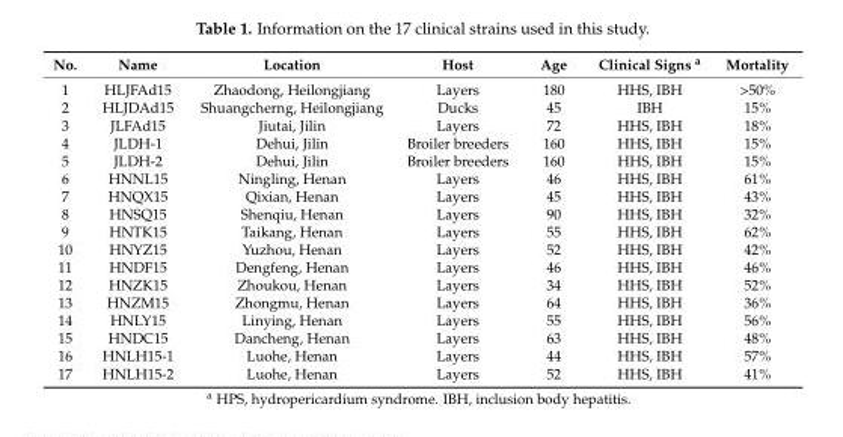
<table><thead><tr><td>No.</td><td>Name</td><td>Location</td><td>Host</td><td>Age</td><td>Clinical Signs <sup>a</sup></td><td>Mortality</td></tr></thead><tbody><tr><td>1</td><td>HLJFAd15</td><td>Zhaodong, Heilongjiang</td><td>Layers</td><td>180</td><td>HHS, IBH</td><td>&gt;50%</td></tr><tr><td>2</td><td>HLJDAd15</td><td>Shuangcherng, Heilongjiang</td><td>Ducks</td><td>45</td><td>IBH</td><td>15%</td></tr><tr><td>3</td><td>JLFAd15</td><td>Jiutai, Jilin</td><td>Layers</td><td>72</td><td>HHS, IBH</td><td>18%</td></tr><tr><td>4</td><td>JLDH-1</td><td>Dehui, Jilin</td><td>Broiler breeders</td><td>160</td><td>HHS, IBH</td><td>15%</td></tr><tr><td>5</td><td>JLDH-2</td><td>Dehui, Jilin</td><td>Broiler breeders</td><td>160</td><td>HHS, IBH</td><td>15%</td></tr><tr><td>6</td><td>HNNL15</td><td>Ningling, Henan</td><td>Layers</td><td>46</td><td>HHS, IBH</td><td>61%</td></tr><tr><td>7</td><td>HNQX15</td><td>Qixian, Henan</td><td>Layers</td><td>45</td><td>HHS, IBH</td><td>43%</td></tr><tr><td>8</td><td>HNSQ15</td><td>Shenqiu, Henan</td><td>Layers</td><td>90</td><td>HHS, IBH</td><td>32%</td></tr><tr><td>9</td><td>HNTK15</td><td>Taikang, Henan</td><td>Layers</td><td>55</td><td>HHS, IBH</td><td>62%</td></tr><tr><td>10</td><td>HNYZ15</td><td>Yuzhou, Henan</td><td>Layers</td><td>52</td><td>HHS, IBH</td><td>42%</td></tr><tr><td>11</td><td>HNDF15</td><td>Dengfeng, Henan</td><td>Layers</td><td>46</td><td>HHS, IBH</td><td>46%</td></tr><tr><td>12</td><td>HNZK15</td><td>Zhoukou, Henan</td><td>Layers</td><td>34</td><td>HHS, IBH</td><td>52%</td></tr><tr><td>13</td><td>HNZM15</td><td>Zhongmu, Henan</td><td>Layers</td><td>64</td><td>HHS, IBH</td><td>36%</td></tr><tr><td>14</td><td>HNLY15</td><td>Linying, Henan</td><td>Layers</td><td>55</td><td>HHS, IBH</td><td>56%</td></tr><tr><td>15</td><td>HNDC15</td><td>Dancheng, Henan</td><td>Layers</td><td>63</td><td>HHS, IBH</td><td>48%</td></tr><tr><td>16</td><td>HNLH15-1</td><td>Luohe, Henan</td><td>Layers</td><td>44</td><td>HHS, IBH</td><td>57%</td></tr><tr><td>17</td><td>HNLH15-2</td><td>Luohe, Henan</td><td>Layers</td><td>52</td><td>HHS, IBH</td><td>41%</td></tr></tbody></table>